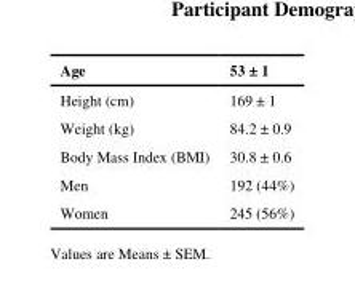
<table><thead><tr><td>Age</td><td>53 ± 1</td></tr></thead><tbody><tr><td>Height (cm)</td><td>169 ± 1</td></tr><tr><td>Weight (kg)</td><td>84.2 ± 0.9</td></tr><tr><td>Body Mass Index (BMI)</td><td>30.8 ± 0.6</td></tr><tr><td>Men</td><td>192 (44%)</td></tr><tr><td>Women</td><td>245 (56%)</td></tr></tbody></table>